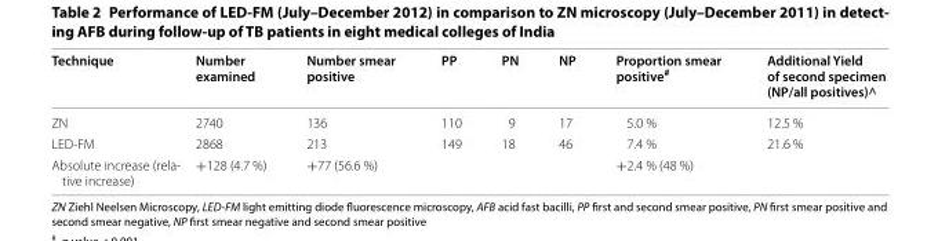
<table><thead><tr><td>Technique</td><td>Number examined</td><td>Number smear positive</td><td>PP</td><td>PN</td><td>NP</td><td>Proportion smear positive<sup>#</sup></td><td>Additional Yield of second specimen (NP/all positives)^</td></tr></thead><tbody><tr><td>ZN</td><td>2740</td><td>136</td><td>110</td><td>9</td><td>17</td><td>5.0 %</td><td>12.5 %</td></tr><tr><td>LED-FM</td><td>2868</td><td>213</td><td>149</td><td>18</td><td>46</td><td>7.4 %</td><td>21.6 %</td></tr><tr><td>Absolute increase (rela- tive increase)</td><td>+128 (4.7 %)</td><td>+77 (56.6 %)</td><td></td><td></td><td></td><td>+2.4 % (48 %)</td><td></td></tr></tbody></table>